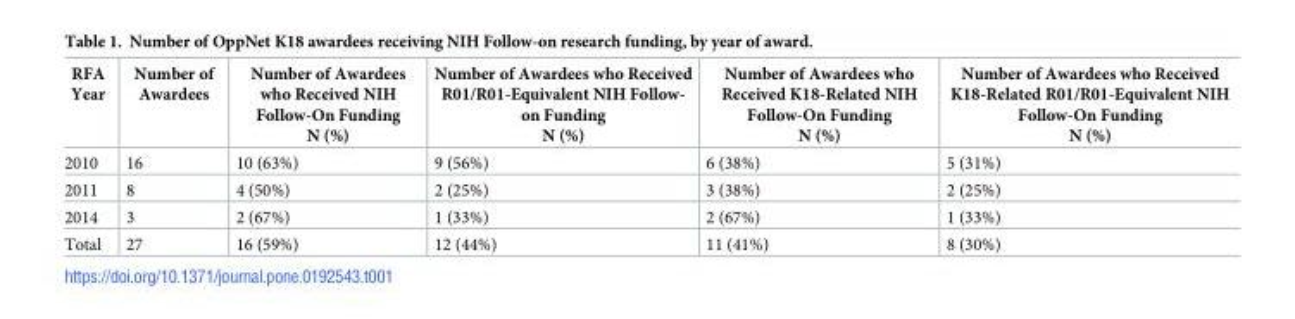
<table><thead><tr><td>RFA Year</td><td>Number of Awardees</td><td>Number of Awardees who Received NIH Follow-On Funding N (%)</td><td>Number of Awardees who Received R01/R01-Equivalent NIH Follow- on Funding N (%)</td><td>Number of Awardees who Received K18-Related NIH Follow-On Funding N (%)</td><td>Number of Awardees who Received K18-Related R01/R01-Equivalent NIH Follow-On Funding N (%)</td></tr></thead><tbody><tr><td>2010</td><td>16</td><td>10 (63%)</td><td>9 (56%)</td><td>6 (38%)</td><td>5 (31%)</td></tr><tr><td>2011</td><td>8</td><td>4 (50%)</td><td>2 (25%)</td><td>3 (38%)</td><td>2 (25%)</td></tr><tr><td>2014</td><td>3</td><td>2 (67%)</td><td>1 (33%)</td><td>2 (67%)</td><td>1 (33%)</td></tr><tr><td>Total</td><td>27</td><td>16 (59%)</td><td>12 (44%)</td><td>11 (41%)</td><td>8 (30%)</td></tr></tbody></table>